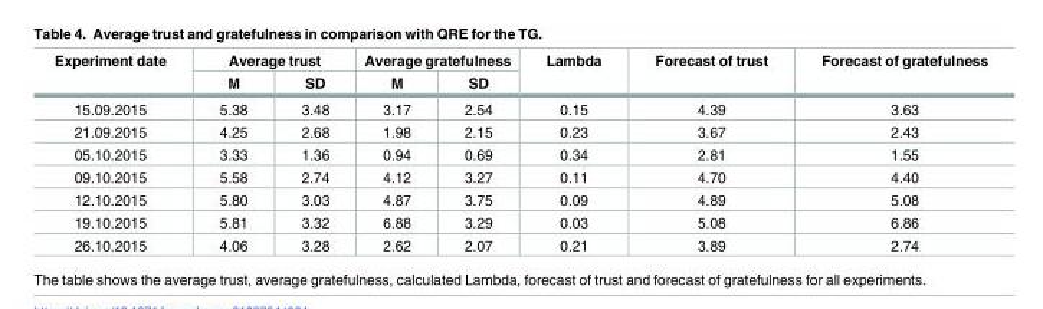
<table><thead><tr><td rowspan="2">Experiment date</td><td colspan="2">Average trust</td><td colspan="2">Average gratefulness</td><td rowspan="2">Lambda</td><td rowspan="2">Forecast of trust</td><td rowspan="2">Forecast of gratefulness</td></tr><tr><td>M</td><td>SD</td><td>M</td><td>SD</td></tr></thead><tbody><tr><td>15.09.2015</td><td>5.38</td><td>3.48</td><td>3.17</td><td>2.54</td><td>0.15</td><td>4.39</td><td>3.63</td></tr><tr><td>21.09.2015</td><td>4.25</td><td>2.68</td><td>1.98</td><td>2.15</td><td>0.23</td><td>3.67</td><td>2.43</td></tr><tr><td>05.10.2015</td><td>3.33</td><td>1.36</td><td>0.94</td><td>0.69</td><td>0.34</td><td>2.81</td><td>1.55</td></tr><tr><td>09.10.2015</td><td>5.58</td><td>2.74</td><td>4.12</td><td>3.27</td><td>0.11</td><td>4.70</td><td>4.40</td></tr><tr><td>12.10.2015</td><td>5.80</td><td>3.03</td><td>4.87</td><td>3.75</td><td>0.09</td><td>4.89</td><td>5.08</td></tr><tr><td>19.10.2015</td><td>5.81</td><td>3.32</td><td>6.88</td><td>3.29</td><td>0.03</td><td>5.08</td><td>6.86</td></tr><tr><td>26.10.2015</td><td>4.06</td><td>3.28</td><td>2.62</td><td>2.07</td><td>0.21</td><td>3.89</td><td>2.74</td></tr></tbody></table>